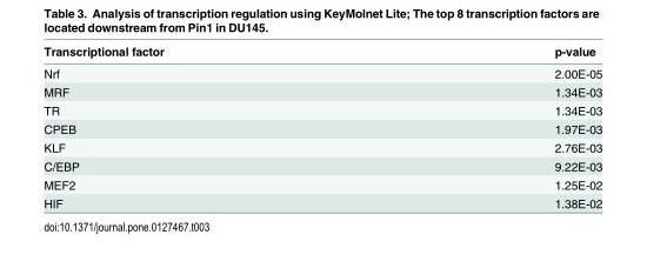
<table><thead><tr><td>Transcriptional factor</td><td>p-value</td></tr></thead><tbody><tr><td>Nrf</td><td>2.00E-05</td></tr><tr><td>MRF</td><td>1.34E-03</td></tr><tr><td>TR</td><td>1.34E-03</td></tr><tr><td>CPEB</td><td>1.97E-03</td></tr><tr><td>KLF</td><td>2.76E-03</td></tr><tr><td>C/EBP</td><td>9.22E-03</td></tr><tr><td>MEF2</td><td>1.25E-02</td></tr><tr><td>HIF</td><td>1.38E-02</td></tr></tbody></table>